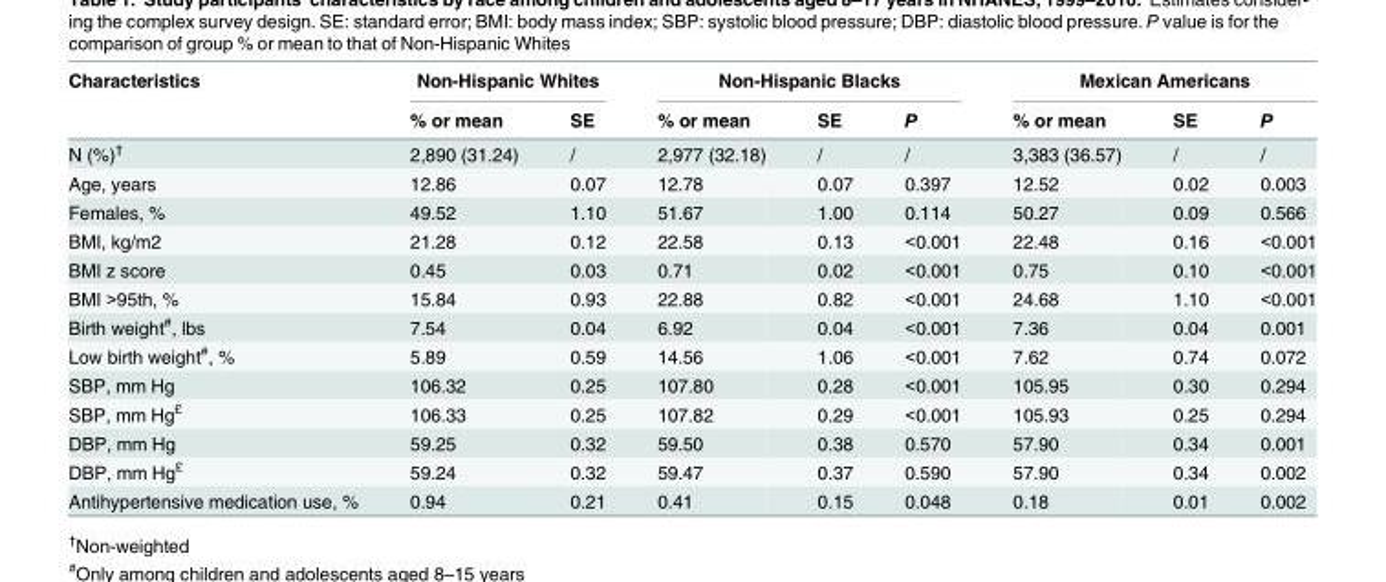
<table><thead><tr><td rowspan="2">Characteristics</td><td colspan="2">Non-Hispanic Whites</td><td colspan="3">Non-Hispanic Blacks</td><td colspan="3">Mexican Americans</td></tr><tr><td>% or mean</td><td>SE</td><td>% or mean</td><td>SE</td><td>P</td><td>% or mean</td><td>SE</td><td>P</td></tr></thead><tbody><tr><td>N (%)<sup>†</sup></td><td>2,890 (31.24)</td><td>/</td><td>2,977 (32.18)</td><td>/</td><td>/</td><td>3,383 (36.57)</td><td>/</td><td>/</td></tr><tr><td>Age, years</td><td>12.86</td><td>0.07</td><td>12.78</td><td>0.07</td><td>0.397</td><td>12.52</td><td>0.02</td><td>0.003</td></tr><tr><td>Females, %</td><td>49.52</td><td>1.10</td><td>51.67</td><td>1.00</td><td>0.114</td><td>50.27</td><td>0.09</td><td>0.566</td></tr><tr><td>BMI, kg/m2</td><td>21.28</td><td>0.12</td><td>22.58</td><td>0.13</td><td>&lt;0.001</td><td>22.48</td><td>0.16</td><td>&lt;0.001</td></tr><tr><td>BMI z score</td><td>0.45</td><td>0.03</td><td>0.71</td><td>0.02</td><td>&lt;0.001</td><td>0.75</td><td>0.10</td><td>&lt;0.001</td></tr><tr><td>BMI &gt;95th, %</td><td>15.84</td><td>0.93</td><td>22.88</td><td>0.82</td><td>&lt;0.001</td><td>24.68</td><td>1.10</td><td>&lt;0.001</td></tr><tr><td>Birth weight<sup>#</sup>, lbs</td><td>7.54</td><td>0.04</td><td>6.92</td><td>0.04</td><td>&lt;0.001</td><td>7.36</td><td>0.04</td><td>0.001</td></tr><tr><td>Low birth weight<sup>#</sup>, %</td><td>5.89</td><td>0.59</td><td>14.56</td><td>1.06</td><td>&lt;0.001</td><td>7.62</td><td>0.74</td><td>0.072</td></tr><tr><td>SBP, mm Hg</td><td>106.32</td><td>0.25</td><td>107.80</td><td>0.28</td><td>&lt;0.001</td><td>105.95</td><td>0.30</td><td>0.294</td></tr><tr><td>SBP, mm Hg<sup>£</sup></td><td>106.33</td><td>0.25</td><td>107.82</td><td>0.29</td><td>&lt;0.001</td><td>105.93</td><td>0.25</td><td>0.294</td></tr><tr><td>DBP, mm Hg</td><td>59.25</td><td>0.32</td><td>59.50</td><td>0.38</td><td>0.570</td><td>57.90</td><td>0.34</td><td>0.001</td></tr><tr><td>DBP, mm Hg<sup>£</sup></td><td>59.24</td><td>0.32</td><td>59.47</td><td>0.37</td><td>0.590</td><td>57.90</td><td>0.34</td><td>0.002</td></tr><tr><td>Antihypertensive medication use, %</td><td>0.94</td><td>0.21</td><td>0.41</td><td>0.15</td><td>0.048</td><td>0.18</td><td>0.01</td><td>0.002</td></tr></tbody></table>